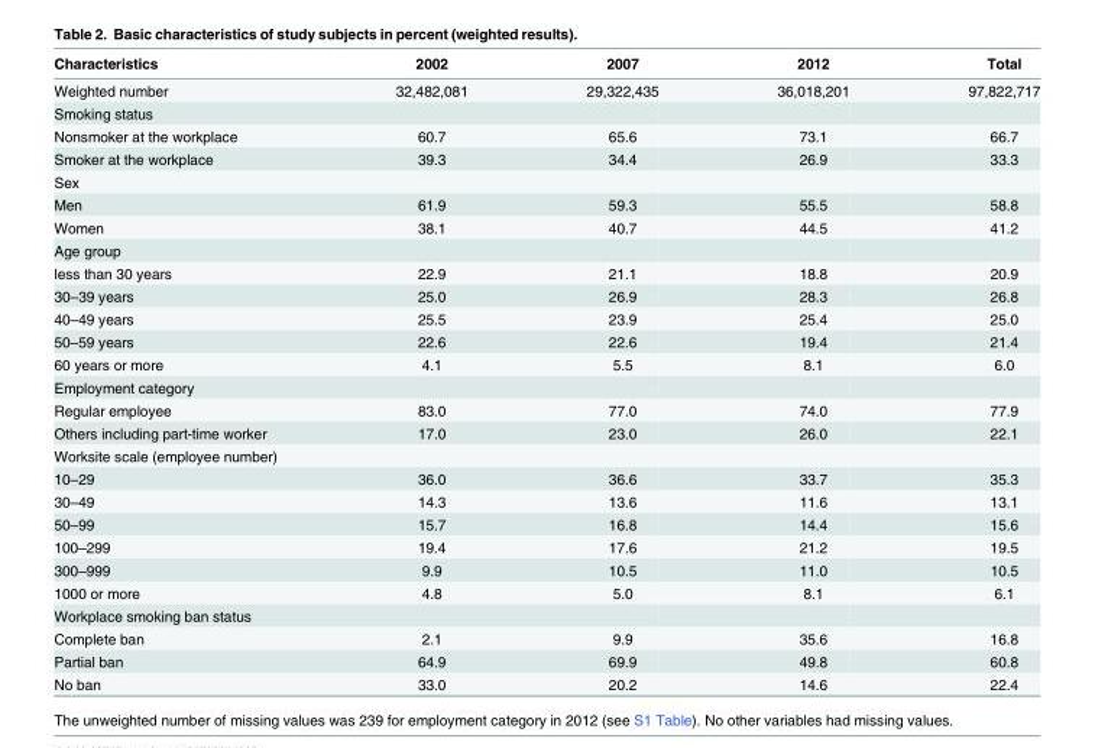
<table><thead><tr><td>Characteristics</td><td>2002</td><td>2007</td><td>2012</td><td>Total</td></tr></thead><tbody><tr><td>Weighted number</td><td>32,482,081</td><td>29,322,435</td><td>36,018,201</td><td>97,822,717</td></tr><tr><td colspan="5">Smoking status</td></tr><tr><td>Nonsmoker at the workplace</td><td>60.7</td><td>65.6</td><td>73.1</td><td>66.7</td></tr><tr><td>Smoker at the workplace</td><td>39.3</td><td>34.4</td><td>26.9</td><td>33.3</td></tr><tr><td colspan="5">Sex</td></tr><tr><td>Men</td><td>61.9</td><td>59.3</td><td>55.5</td><td>58.8</td></tr><tr><td>Women</td><td>38.1</td><td>40.7</td><td>44.5</td><td>41.2</td></tr><tr><td colspan="5">Age group</td></tr><tr><td>less than 30 years</td><td>22.9</td><td>21.1</td><td>18.8</td><td>20.9</td></tr><tr><td>30–39 years</td><td>25.0</td><td>26.9</td><td>28.3</td><td>26.8</td></tr><tr><td>40–49 years</td><td>25.5</td><td>23.9</td><td>25.4</td><td>25.0</td></tr><tr><td>50–59 years</td><td>22.6</td><td>22.6</td><td>19.4</td><td>21.4</td></tr><tr><td>60 years or more</td><td>4.1</td><td>5.5</td><td>8.1</td><td>6.0</td></tr><tr><td colspan="5">Employment category</td></tr><tr><td>Regular employee</td><td>83.0</td><td>77.0</td><td>74.0</td><td>77.9</td></tr><tr><td>Others including part-time worker</td><td>17.0</td><td>23.0</td><td>26.0</td><td>22.1</td></tr><tr><td colspan="5">Worksite scale (employee number)</td></tr><tr><td>10–29</td><td>36.0</td><td>36.6</td><td>33.7</td><td>35.3</td></tr><tr><td>30–49</td><td>14.3</td><td>13.6</td><td>11.6</td><td>13.1</td></tr><tr><td>50–99</td><td>15.7</td><td>16.8</td><td>14.4</td><td>15.6</td></tr><tr><td>100–299</td><td>19.4</td><td>17.6</td><td>21.2</td><td>19.5</td></tr><tr><td>300–999</td><td>9.9</td><td>10.5</td><td>11.0</td><td>10.5</td></tr><tr><td>1000 or more</td><td>4.8</td><td>5.0</td><td>8.1</td><td>6.1</td></tr><tr><td colspan="5">Workplace smoking ban status</td></tr><tr><td>Complete ban</td><td>2.1</td><td>9.9</td><td>35.6</td><td>16.8</td></tr><tr><td>Partial ban</td><td>64.9</td><td>69.9</td><td>49.8</td><td>60.8</td></tr><tr><td>No ban</td><td>33.0</td><td>20.2</td><td>14.6</td><td>22.4</td></tr></tbody></table>